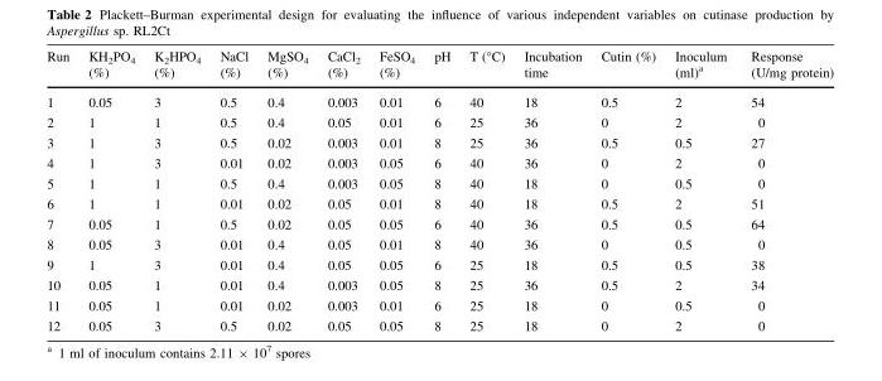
<table><thead><tr><td>Run</td><td>KH<sub>2</sub>PO<sub>4</sub> (%)</td><td>K<sub>2</sub>HPO<sub>4</sub> (%)</td><td>NaCl (%)</td><td>MgSO<sub>4</sub> (%)</td><td>CaCl<sub>2</sub> (%)</td><td>FeSO<sub>4</sub> (%)</td><td>pH</td><td>T (°C)</td><td>Incubation time</td><td>Cutin (%)</td><td>Inoculum (ml)<sup>a</sup></td><td>Response (U/mg protein)</td></tr></thead><tbody><tr><td>1</td><td>0.05</td><td>3</td><td>0.5</td><td>0.4</td><td>0.003</td><td>0.01</td><td>6</td><td>40</td><td>18</td><td>0.5</td><td>2</td><td>54</td></tr><tr><td>2</td><td>1</td><td>1</td><td>0.5</td><td>0.4</td><td>0.05</td><td>0.01</td><td>6</td><td>25</td><td>36</td><td>0</td><td>2</td><td>0</td></tr><tr><td>3</td><td>1</td><td>3</td><td>0.5</td><td>0.02</td><td>0.003</td><td>0.01</td><td>8</td><td>25</td><td>36</td><td>0.5</td><td>0.5</td><td>27</td></tr><tr><td>4</td><td>1</td><td>3</td><td>0.01</td><td>0.02</td><td>0.003</td><td>0.05</td><td>6</td><td>40</td><td>36</td><td>0</td><td>2</td><td>0</td></tr><tr><td>5</td><td>1</td><td>1</td><td>0.5</td><td>0.4</td><td>0.003</td><td>0.05</td><td>8</td><td>40</td><td>18</td><td>0</td><td>0.5</td><td>0</td></tr><tr><td>6</td><td>1</td><td>1</td><td>0.01</td><td>0.02</td><td>0.05</td><td>0.01</td><td>8</td><td>40</td><td>18</td><td>0.5</td><td>2</td><td>51</td></tr><tr><td>7</td><td>0.05</td><td>1</td><td>0.5</td><td>0.02</td><td>0.05</td><td>0.05</td><td>6</td><td>40</td><td>36</td><td>0.5</td><td>0.5</td><td>64</td></tr><tr><td>8</td><td>0.05</td><td>3</td><td>0.01</td><td>0.4</td><td>0.05</td><td>0.01</td><td>8</td><td>40</td><td>36</td><td>0</td><td>0.5</td><td>0</td></tr><tr><td>9</td><td>1</td><td>3</td><td>0.01</td><td>0.4</td><td>0.05</td><td>0.05</td><td>6</td><td>25</td><td>18</td><td>0.5</td><td>0.5</td><td>38</td></tr><tr><td>10</td><td>0.05</td><td>1</td><td>0.01</td><td>0.4</td><td>0.003</td><td>0.05</td><td>8</td><td>25</td><td>36</td><td>0.5</td><td>2</td><td>34</td></tr><tr><td>11</td><td>0.05</td><td>1</td><td>0.01</td><td>0.02</td><td>0.003</td><td>0.01</td><td>6</td><td>25</td><td>18</td><td>0</td><td>0.5</td><td>0</td></tr><tr><td>12</td><td>0.05</td><td>3</td><td>0.5</td><td>0.02</td><td>0.05</td><td>0.05</td><td>8</td><td>25</td><td>18</td><td>0</td><td>2</td><td>0</td></tr></tbody></table>